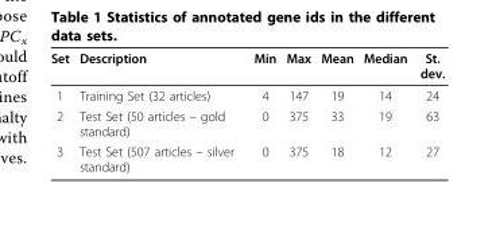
<table><thead><tr><td>Set</td><td>Description</td><td>Min</td><td>Max</td><td>Mean</td><td>Median</td><td>St. dev.</td></tr></thead><tbody><tr><td>1</td><td>Training Set (32 articles)</td><td>4</td><td>147</td><td>19</td><td>14</td><td>24</td></tr><tr><td>2</td><td>Test Set (50 articles – gold standard)</td><td>0</td><td>375</td><td>33</td><td>19</td><td>63</td></tr><tr><td>3</td><td>Test Set (507 articles – silver standard)</td><td>0</td><td>375</td><td>18</td><td>12</td><td>27</td></tr></tbody></table>